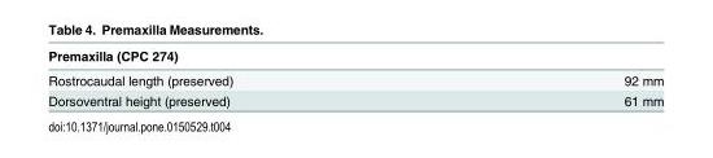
<table><thead><tr><td>Premaxilla (CPC 274)</td><td></td></tr></thead><tbody><tr><td>Rostrocaudal length (preserved)</td><td>92 mm</td></tr><tr><td>Dorsoventral height (preserved)</td><td>61 mm</td></tr></tbody></table>